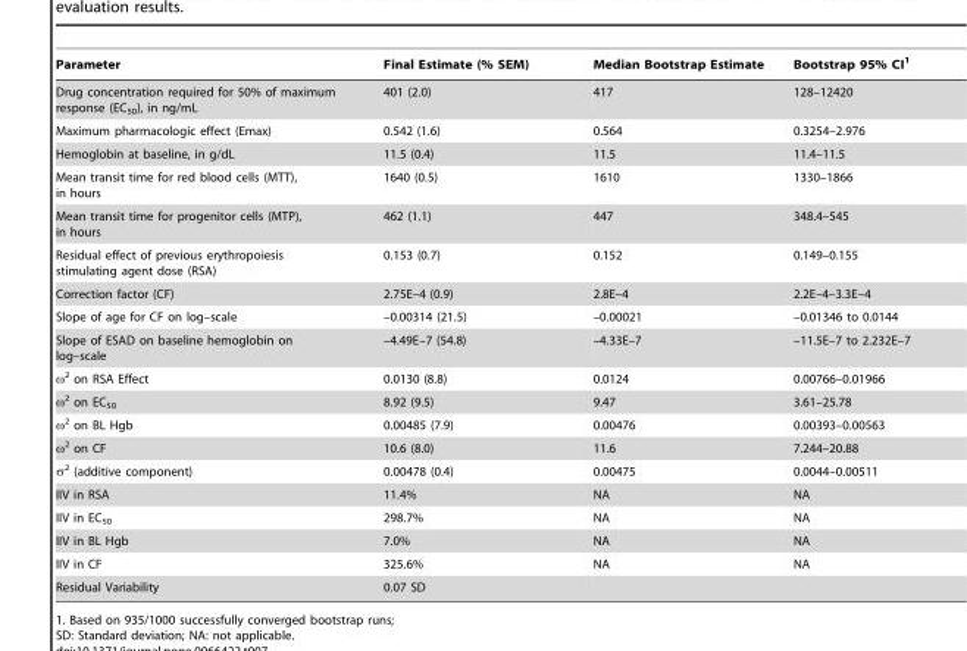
<table><thead><tr><td>Parameter</td><td>Final Estimate (% SEM)</td><td>Median Bootstrap Estimate</td><td>Bootstrap 95% CI<sup>1</sup></td></tr></thead><tbody><tr><td>Drug concentration required for 50% of maximum response (EC<sub>50</sub>), in ng/mL</td><td>401 (2.0)</td><td>417</td><td>128–12420</td></tr><tr><td>Maximum pharmacologic effect (Emax)</td><td>0.542 (1.6)</td><td>0.564</td><td>0.3254–2.976</td></tr><tr><td>Hemoglobin at baseline, in g/dL</td><td>11.5 (0.4)</td><td>11.5</td><td>11.4–11.5</td></tr><tr><td>Mean transit time for red blood cells (MTT), in hours</td><td>1640 (0.5)</td><td>1610</td><td>1330–1866</td></tr><tr><td>Mean transit time for progenitor cells (MTP), in hours</td><td>462 (1.1)</td><td>447</td><td>348.4–545</td></tr><tr><td>Residual effect of previous erythropoiesis stimulating agent dose (RSA)</td><td>0.153 (0.7)</td><td>0.152</td><td>0.149–0.155</td></tr><tr><td>Correction factor (CF)</td><td>2.75E–4 (0.9)</td><td>2.8E–4</td><td>2.2E–4–3.3E–4</td></tr><tr><td>Slope of age for CF on log–scale</td><td>–0.00314 (21.5)</td><td>–0.00021</td><td>–0.01346 to 0.0144</td></tr><tr><td>Slope of ESAD on baseline hemoglobin on log–scale</td><td>–4.49E–7 (54.8)</td><td>–4.33E–7</td><td>–11.5E–7 to 2.232E–7</td></tr><tr><td>ω<sup>2</sup> on RSA Effect</td><td>0.0130 (8.8)</td><td>0.0124</td><td>0.00766–0.01966</td></tr><tr><td>ω<sup>2</sup> on EC<sub>50</sub></td><td>8.92 (9.5)</td><td>9.47</td><td>3.61–25.78</td></tr><tr><td>ω<sup>2</sup> on BL Hgb</td><td>0.00485 (7.9)</td><td>0.00476</td><td>0.00393–0.00563</td></tr><tr><td>ω<sup>2</sup> on CF</td><td>10.6 (8.0)</td><td>11.6</td><td>7.244–20.88</td></tr><tr><td>σ<sup>2</sup> (additive component)</td><td>0.00478 (0.4)</td><td>0.00475</td><td>0.0044–0.00511</td></tr><tr><td>IIV in RSA</td><td>11.4%</td><td>NA</td><td>NA</td></tr><tr><td>IIV in EC<sub>50</sub></td><td>298.7%</td><td>NA</td><td>NA</td></tr><tr><td>IIV in BL Hgb</td><td>7.0%</td><td>NA</td><td>NA</td></tr><tr><td>IIV in CF</td><td>325.6%</td><td>NA</td><td>NA</td></tr><tr><td>Residual Variability</td><td>0.07 SD</td><td></td><td></td></tr></tbody></table>